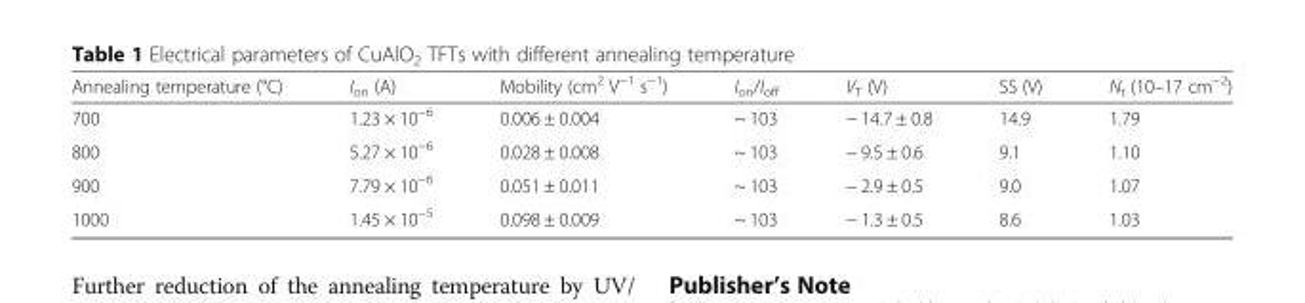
<table><thead><tr><td>Annealing temperature (°C)</td><td>I<sub>on</sub> (A)</td><td>Mobility (cm<sup>2</sup> V<sup>−1</sup> s<sup>−1</sup>)</td><td>I<sub>on</sub>/I<sub>off</sub></td><td>V<sub>T</sub> (V)</td><td>SS (V)</td><td>N<sub>t</sub> (10–17 cm<sup>−2</sup>)</td></tr></thead><tbody><tr><td>700</td><td>1.23 × 10<sup>−6</sup></td><td>0.006 ± 0.004</td><td>~ 103</td><td>− 14.7 ± 0.8</td><td>14.9</td><td>1.79</td></tr><tr><td>800</td><td>5.27 × 10<sup>−6</sup></td><td>0.028 ± 0.008</td><td>~ 103</td><td>− 9.5 ± 0.6</td><td>9.1</td><td>1.10</td></tr><tr><td>900</td><td>7.79 × 10<sup>−6</sup></td><td>0.051 ± 0.011</td><td>~ 103</td><td>− 2.9 ± 0.5</td><td>9.0</td><td>1.07</td></tr><tr><td>1000</td><td>1.45 × 10<sup>−5</sup></td><td>0.098 ± 0.009</td><td>~ 103</td><td>− 1.3 ± 0.5</td><td>8.6</td><td>1.03</td></tr></tbody></table>